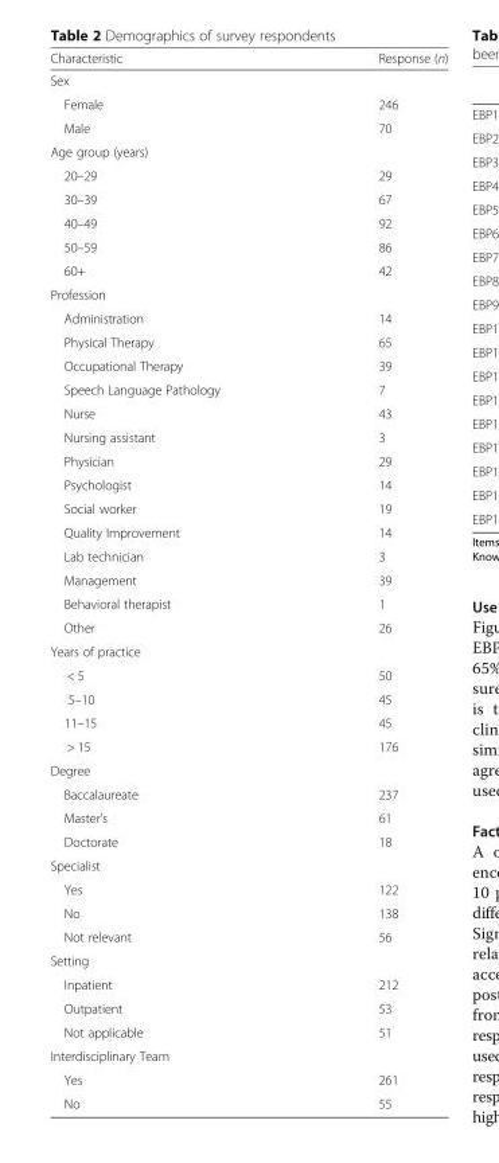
<table><thead><tr><td>Characteristic</td><td>Response (n)</td></tr></thead><tbody><tr><td colspan="2">Sex</td></tr><tr><td>Female</td><td>246</td></tr><tr><td>Male</td><td>70</td></tr><tr><td colspan="2">Age group (years)</td></tr><tr><td>20–29</td><td>29</td></tr><tr><td>30–39</td><td>67</td></tr><tr><td>40–49</td><td>92</td></tr><tr><td>50–59</td><td>86</td></tr><tr><td>60+</td><td>42</td></tr><tr><td colspan="2">Profession</td></tr><tr><td>Administration</td><td>14</td></tr><tr><td>Physical Therapy</td><td>65</td></tr><tr><td>Occupational Therapy</td><td>39</td></tr><tr><td>Speech Language Pathology</td><td>7</td></tr><tr><td>Nurse</td><td>43</td></tr><tr><td>Nursing assistant</td><td>3</td></tr><tr><td>Physician</td><td>29</td></tr><tr><td>Psychologist</td><td>14</td></tr><tr><td>Social worker</td><td>19</td></tr><tr><td>Quality Improvement</td><td>14</td></tr><tr><td>Lab technician</td><td>3</td></tr><tr><td>Management</td><td>39</td></tr><tr><td>Behavioral therapist</td><td>1</td></tr><tr><td>Other</td><td>26</td></tr><tr><td colspan="2">Years of practice</td></tr><tr><td>&lt; 5</td><td>50</td></tr><tr><td>5–10</td><td>45</td></tr><tr><td>11–15</td><td>45</td></tr><tr><td>&gt; 15</td><td>176</td></tr><tr><td colspan="2">Degree</td></tr><tr><td>Baccalaureate</td><td>237</td></tr><tr><td>Master’s</td><td>61</td></tr><tr><td>Doctorate</td><td>18</td></tr><tr><td colspan="2">Specialist</td></tr><tr><td>Yes</td><td>122</td></tr><tr><td>No</td><td>138</td></tr><tr><td>Not relevant</td><td>56</td></tr><tr><td colspan="2">Setting</td></tr><tr><td>Inpatient</td><td>212</td></tr><tr><td>Outpatient</td><td>53</td></tr><tr><td>Not applicable</td><td>51</td></tr><tr><td colspan="2">Interdisciplinary Team</td></tr><tr><td>Yes</td><td>261</td></tr><tr><td>No</td><td>55</td></tr></tbody></table>